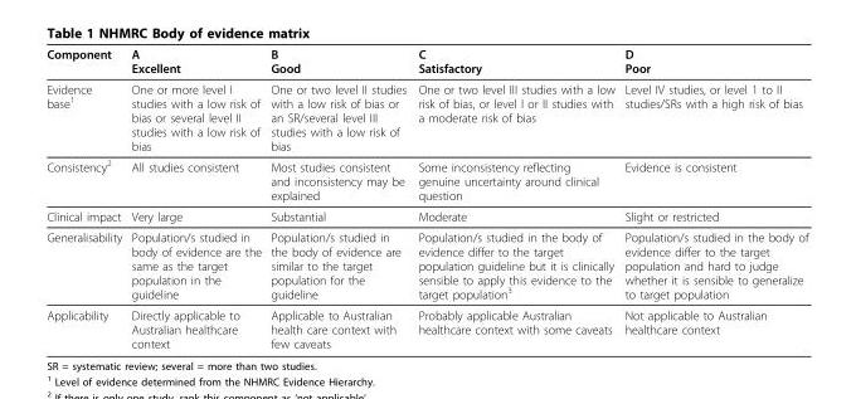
<table><thead><tr><td>Component</td><td>A Excellent</td><td>B Good</td><td>C Satisfactory</td><td>D Poor</td></tr></thead><tbody><tr><td>Evidence base<sup>1</sup></td><td>One or more level I studies with a low risk of bias or several level II studies with a low risk of bias</td><td>One or two level II studies with a low risk of bias or an SR/several level III studies with a low risk of bias</td><td>One or two level III studies with a low risk of bias, or level I or II studies with a moderate risk of bias</td><td>Level IV studies, or level 1 to II studies/SRs with a high risk of bias</td></tr><tr><td>Consistency<sup>2</sup></td><td>All studies consistent</td><td>Most studies consistent and inconsistency may be explained</td><td>Some inconsistency reflecting genuine uncertainty around clinical question</td><td>Evidence is consistent</td></tr><tr><td>Clinical impact</td><td>Very large</td><td>Substantial</td><td>Moderate</td><td>Slight or restricted</td></tr><tr><td>Generalisability</td><td>Population/s studied in body of evidence are the same as the target population in the guideline</td><td>Population/s studied in the body of evidence are similar to the target population for the guideline</td><td>Population/s studied in the body of evidence differ to the target population guideline but it is clinically sensible to apply this evidence to the target population<sup>3</sup></td><td>Population/s studied in the body of evidence differ to the target population and hard to judge whether it is sensible to generalize to target population</td></tr><tr><td>Applicability</td><td>Directly applicable to Australian healthcare context</td><td>Applicable to Australian health care context with few caveats</td><td>Probably applicable Australian healthcare context with some caveats</td><td>Not applicable to Australian healthcare context</td></tr></tbody></table>